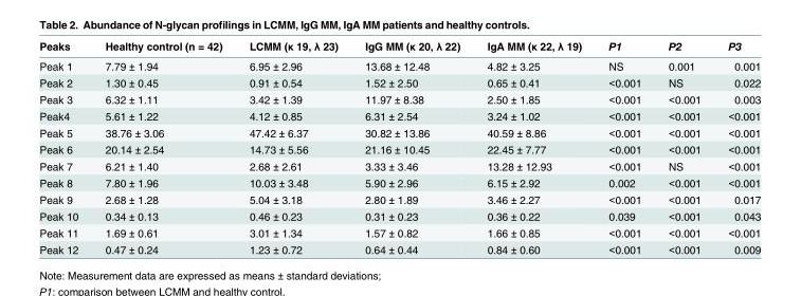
<table><thead><tr><td>Peaks</td><td>Healthy control (n = 42)</td><td>LCMM (κ 19, λ 23)</td><td>IgG MM (κ 20, λ 22)</td><td>IgA MM (κ 22, λ 19)</td><td>P1</td><td>P2</td><td>P3</td></tr></thead><tbody><tr><td>Peak 1</td><td>7.79 ± 1.94</td><td>6.95 ± 2.96</td><td>13.68 ± 12.48</td><td>4.82 ± 3.25</td><td>NS</td><td>0.001</td><td>0.001</td></tr><tr><td>Peak 2</td><td>1.30 ± 0.45</td><td>0.91 ± 0.54</td><td>1.52 ± 2.50</td><td>0.65 ± 0.41</td><td>&lt;0.001</td><td>NS</td><td>0.022</td></tr><tr><td>Peak 3</td><td>6.32 ± 1.11</td><td>3.42 ± 1.39</td><td>11.97 ± 8.38</td><td>2.50 ± 1.85</td><td>&lt;0.001</td><td>&lt;0.001</td><td>0.003</td></tr><tr><td>Peak4</td><td>5.61 ± 1.22</td><td>4.12 ± 0.85</td><td>6.31 ± 2.54</td><td>3.24 ± 1.02</td><td>&lt;0.001</td><td>&lt;0.001</td><td>&lt;0.001</td></tr><tr><td>Peak 5</td><td>38.76 ± 3.06</td><td>47.42 ± 6.37</td><td>30.82 ± 13.86</td><td>40.59 ± 8.86</td><td>&lt;0.001</td><td>&lt;0.001</td><td>&lt;0.001</td></tr><tr><td>Peak 6</td><td>20.14 ± 2.54</td><td>14.73 ± 5.56</td><td>21.16 ± 10.45</td><td>22.45 ± 7.77</td><td>&lt;0.001</td><td>&lt;0.001</td><td>&lt;0.001</td></tr><tr><td>Peak 7</td><td>6.21 ± 1.40</td><td>2.68 ± 2.61</td><td>3.33 ± 3.46</td><td>13.28 ± 12.93</td><td>&lt;0.001</td><td>NS</td><td>&lt;0.001</td></tr><tr><td>Peak 8</td><td>7.80 ± 1.96</td><td>10.03 ± 3.48</td><td>5.90 ± 2.96</td><td>6.15 ± 2.92</td><td>0.002</td><td>&lt;0.001</td><td>&lt;0.001</td></tr><tr><td>Peak 9</td><td>2.68 ± 1.28</td><td>5.04 ± 3.18</td><td>2.80 ± 1.89</td><td>3.46 ± 2.27</td><td>&lt;0.001</td><td>&lt;0.001</td><td>0.017</td></tr><tr><td>Peak 10</td><td>0.34 ± 0.13</td><td>0.46 ± 0.23</td><td>0.31 ± 0.23</td><td>0.36 ± 0.22</td><td>0.039</td><td>&lt;0.001</td><td>0.043</td></tr><tr><td>Peak 11</td><td>1.69 ± 0.61</td><td>3.01 ± 1.34</td><td>1.57 ± 0.82</td><td>1.66 ± 0.85</td><td>&lt;0.001</td><td>&lt;0.001</td><td>&lt;0.001</td></tr><tr><td>Peak 12</td><td>0.47 ± 0.24</td><td>1.23 ± 0.72</td><td>0.64 ± 0.44</td><td>0.84 ± 0.60</td><td>&lt;0.001</td><td>&lt;0.001</td><td>0.009</td></tr></tbody></table>